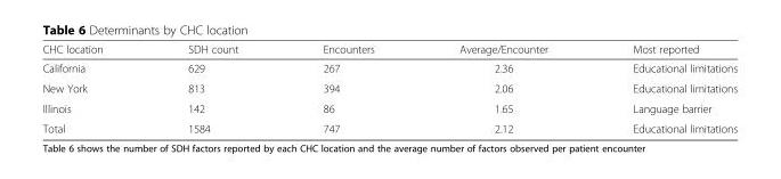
<table><thead><tr><td>CHC location</td><td>SDH count</td><td>Encounters</td><td>Average/Encounter</td><td>Most reported</td></tr></thead><tbody><tr><td>California</td><td>629</td><td>267</td><td>2.36</td><td>Educational limitations</td></tr><tr><td>New York</td><td>813</td><td>394</td><td>2.06</td><td>Educational limitations</td></tr><tr><td>Illinois</td><td>142</td><td>86</td><td>1.65</td><td>Language barrier</td></tr><tr><td>Total</td><td>1584</td><td>747</td><td>2.12</td><td>Educational limitations</td></tr></tbody></table>